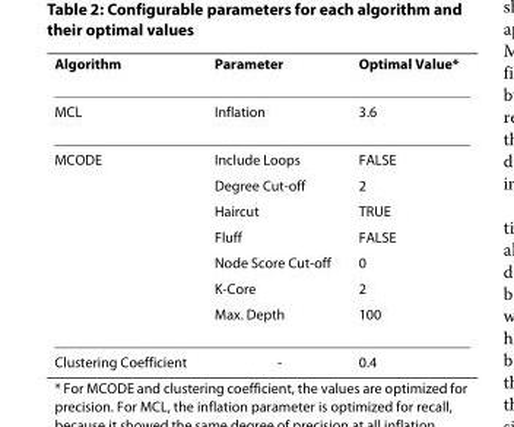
<table><thead><tr><td>Algorithm</td><td>Parameter</td><td>Optimal Value*</td></tr></thead><tbody><tr><td>MCL</td><td>Inflation</td><td>3.6</td></tr><tr><td rowspan="7">MCODE</td><td>Include Loops</td><td>FALSE</td></tr><tr><td>Degree Cut-off</td><td>2</td></tr><tr><td>Haircut</td><td>TRUE</td></tr><tr><td>Fluff</td><td>FALSE</td></tr><tr><td>Node Score Cut-off</td><td>0</td></tr><tr><td>K-Core</td><td>2</td></tr><tr><td>Max. Depth</td><td>100</td></tr><tr><td>Clustering Coefficient</td><td>-</td><td>0.4</td></tr></tbody></table>